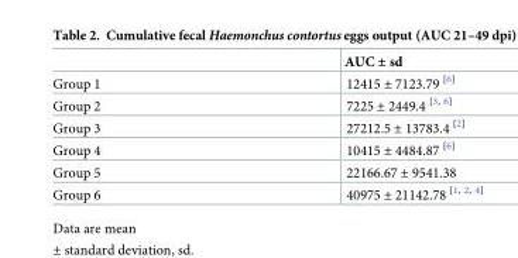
<table><thead><tr><td></td><td>AUC ± sd</td></tr></thead><tbody><tr><td>Group 1</td><td>12415 ± 7123.79 <sup>[6]</sup></td></tr><tr><td>Group 2</td><td>7225 ± 2449.4 <sup>[3, 6]</sup></td></tr><tr><td>Group 3</td><td>27212.5 ± 13783.4 <sup>[2]</sup></td></tr><tr><td>Group 4</td><td>10415 ± 4484.87 <sup>[6]</sup></td></tr><tr><td>Group 5</td><td>22166.67 ± 9541.38</td></tr><tr><td>Group 6</td><td>40975 ± 21142.78 [1,</td></tr></tbody></table>